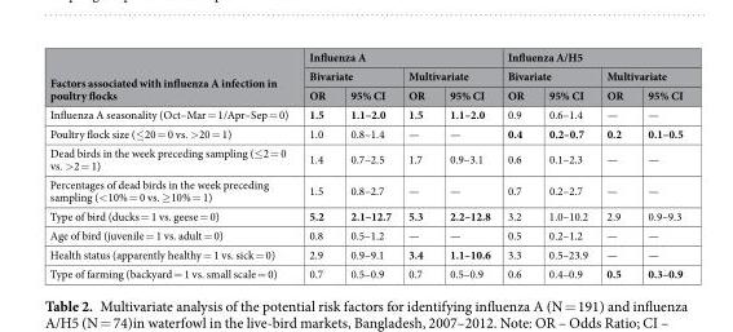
<table><thead><tr><td rowspan="3">Factors associated with influenza A infection in poultry flocks</td><td colspan="4">Influenza A</td><td colspan="4">Influenza A/H5</td></tr><tr><td colspan="2">Bivariate</td><td colspan="2">Multivariate</td><td colspan="2">Bivariate</td><td colspan="2">Multivariate</td></tr><tr><td>OR</td><td>95% CI</td><td>OR</td><td>95% CI</td><td>OR</td><td>95% CI</td><td>OR</td><td>95% CI</td></tr></thead><tbody><tr><td>Influenza A seasonality (Oct–Mar = 1/Apr–Sep = 0)</td><td>1.5</td><td>1.1–2.0</td><td>1.5</td><td>1.1–2.0</td><td>0.9</td><td>0.6–1.4</td><td>—</td><td>—</td></tr><tr><td>Poultry flock size (≤20 = 0 vs. &gt;20 = 1)</td><td>1.0</td><td>0.8–1.4</td><td>—</td><td>—</td><td>0.4</td><td>0.2–0.7</td><td>0.2</td><td>0.1–0.5</td></tr><tr><td>Dead birds in the week preceding sampling (≤2 = 0 vs. &gt;2 = 1)</td><td>1.4</td><td>0.7–2.5</td><td>1.7</td><td>0.9–3.1</td><td>0.6</td><td>0.1–2.3</td><td>—</td><td>—</td></tr><tr><td>Percentages of dead birds in the week preceding sampling (&lt;10% = 0 vs. ≥10% = 1)</td><td>1.5</td><td>0.8–2.7</td><td>—</td><td>—</td><td>0.7</td><td>0.2–2.7</td><td>—</td><td>—</td></tr><tr><td>Type of bird (ducks = 1 vs. geese = 0)</td><td>5.2</td><td>2.1–12.7</td><td>5.3</td><td>2.2–12.8</td><td>3.2</td><td>1.0–10.2</td><td>2.9</td><td>0.9–9.3</td></tr><tr><td>Age of bird (juvenile = 1 vs. adult = 0)</td><td>0.8</td><td>0.5–1.2</td><td>—</td><td>—</td><td>0.5</td><td>0.2–1.2</td><td>—</td><td>—</td></tr><tr><td>Health status (apparently healthy = 1 vs. sick = 0)</td><td>2.9</td><td>0.9–9.1</td><td>3.4</td><td>1.1–10.6</td><td>3.3</td><td>0.5–23.9</td><td>—</td><td>—</td></tr><tr><td>Type of farming (backyard = 1 vs. small scale = 0)</td><td>0.7</td><td>0.5–0.9</td><td>0.7</td><td>0.5–0.9</td><td>0.6</td><td>0.4–0.9</td><td>0.5</td><td>0.3–0.9</td></tr></tbody></table>